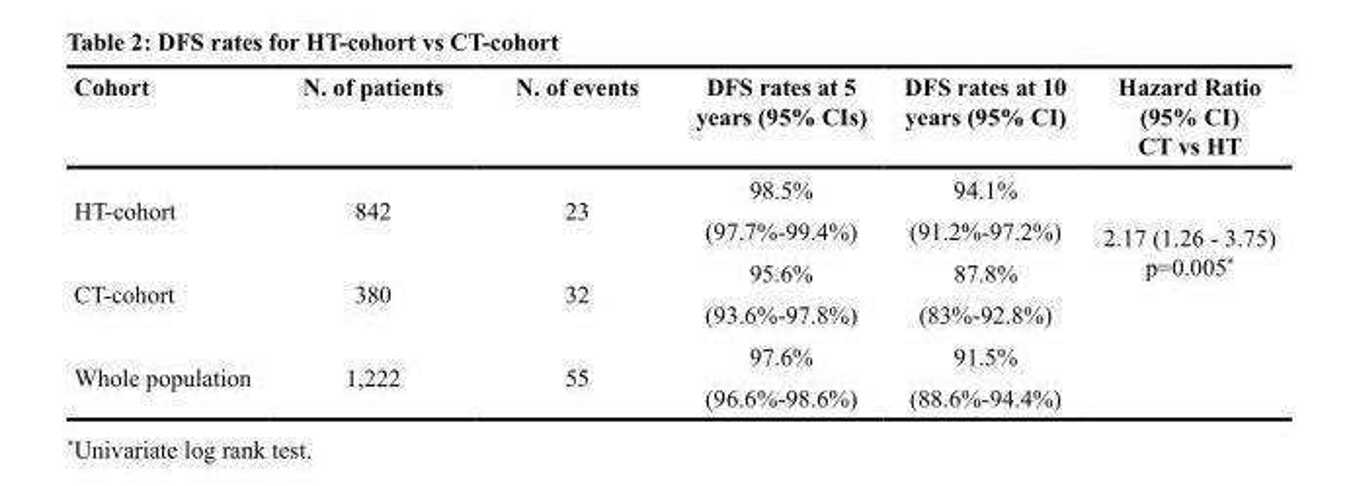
<table><thead><tr><td>Cohort</td><td>N. of patients</td><td>N. of events</td><td>DFS rates at 5 years (95% CIs)</td><td>DFS rates at 10 years (95% CI)</td><td>Hazard Ratio (95% CI) CT vs HT</td></tr></thead><tbody><tr><td rowspan="2">HT-cohort</td><td rowspan="2">842</td><td rowspan="2">23</td><td>98.5%</td><td>94.1%</td><td rowspan="4">2.17 (1.26 - 3.75) p=0.005*</td></tr><tr><td>(97.7%-99.4%)</td><td>(91.2%-97.2%)</td></tr><tr><td rowspan="2">CT-cohort</td><td rowspan="2">380</td><td rowspan="2">32</td><td>95.6%</td><td>87.8%</td></tr><tr><td>(93.6%-97.8%)</td><td>(83%-92.8%)</td></tr><tr><td rowspan="2">Whole population</td><td rowspan="2">1,222</td><td rowspan="2">55</td><td>97.6%</td><td>91.5%</td><td rowspan="2"></td></tr><tr><td>(96.6%-98.6%)</td><td>(88.6%-94.4%)</td></tr></tbody></table>